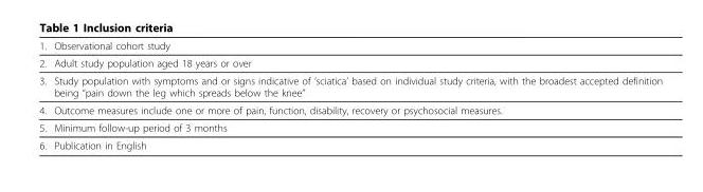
<table><thead><tr><td>1.</td><td>Observational cohort study</td></tr></thead><tbody><tr><td>2.</td><td>Adult study population aged 18 years or over</td></tr><tr><td>3.</td><td>Study population with symptoms and or signs indicative of ‘sciatica’ based on individual study criteria, with the broadest accepted definition being “pain down the leg which spreads below the knee”</td></tr><tr><td>4.</td><td>Outcome measures include one or more of pain, function, disability, recovery or psychosocial measures.</td></tr><tr><td>5.</td><td>Minimum follow-up period of 3 months</td></tr><tr><td>6.</td><td>Publication in English</td></tr></tbody></table>